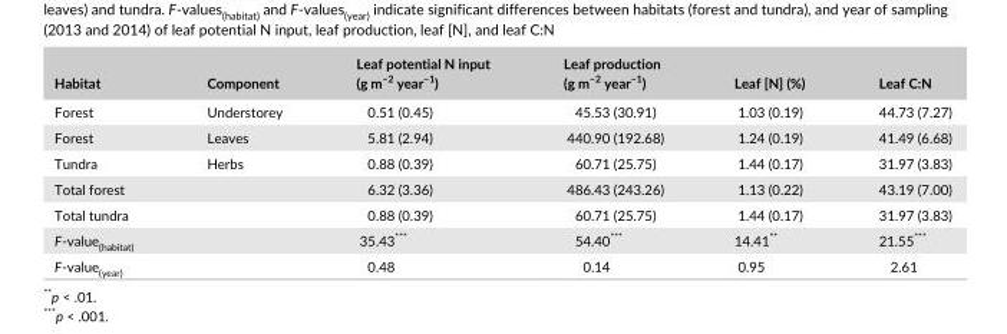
<table><thead><tr><td>Habitat</td><td>Component</td><td>Leaf potential N input (g m<sup>−2</sup> year<sup>−1</sup>)</td><td>Leaf production (g m<sup>−2</sup> year<sup>−1</sup>)</td><td>Leaf [N] (%)</td><td>Leaf C:N</td></tr></thead><tbody><tr><td>Forest</td><td>Understorey</td><td>0.51 (0.45)</td><td>45.53 (30.91)</td><td>1.03 (0.19)</td><td>44.73 (7.27)</td></tr><tr><td>Forest</td><td>Leaves</td><td>5.81 (2.94)</td><td>440.90 (192.68)</td><td>1.24 (0.19)</td><td>41.49 (6.68)</td></tr><tr><td>Tundra</td><td>Herbs</td><td>0.88 (0.39)</td><td>60.71 (25.75)</td><td>1.44 (0.17)</td><td>31.97 (3.83)</td></tr><tr><td>Total forest</td><td></td><td>6.32 (3.36)</td><td>486.43 (243.26)</td><td>1.13 (0.22)</td><td>43.19 (7.00)</td></tr><tr><td>Total tundra</td><td></td><td>0.88 (0.39)</td><td>60.71 (25.75)</td><td>1.44 (0.17)</td><td>31.97 (3.83)</td></tr><tr><td>F- value<sub>(habitat)</sub></td><td></td><td>35.43***</td><td>54.40***</td><td>14.41**</td><td>21.55***</td></tr><tr><td>F- value<sub>(year)</sub></td><td></td><td>0.48</td><td>0.14</td><td>0.95</td><td>2.61</td></tr></tbody></table>